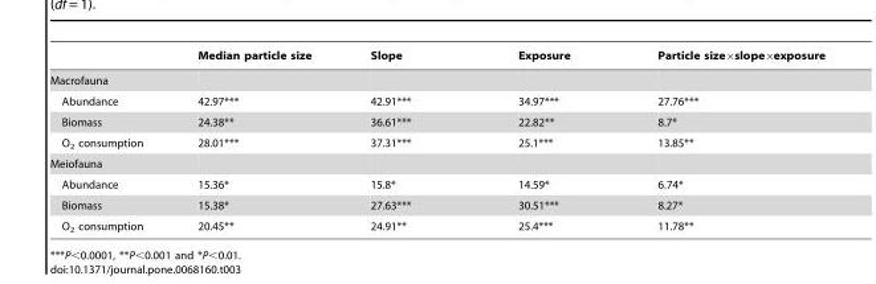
<table><thead><tr><td></td><td>Median particle size</td><td>Slope</td><td>Exposure</td><td>Particle size×slope×exposure</td></tr></thead><tbody><tr><td colspan="5">Macrofauna</td></tr><tr><td>Abundance</td><td>42.97***</td><td>42.91***</td><td>34.97***</td><td>27.76***</td></tr><tr><td>Biomass</td><td>24.38**</td><td>36.61***</td><td>22.82**</td><td>8.7*</td></tr><tr><td>O<sub>2</sub> consumption</td><td>28.01***</td><td>37.31***</td><td>25.1***</td><td>13.85**</td></tr><tr><td colspan="5">Meiofauna</td></tr><tr><td>Abundance</td><td>15.36*</td><td>15.8*</td><td>14.59*</td><td>6.74*</td></tr><tr><td>Biomass</td><td>15.38*</td><td>27.63***</td><td>30.51***</td><td>8.27*</td></tr><tr><td>O<sub>2</sub> consumption</td><td>20.45**</td><td>24.91**</td><td>25.4***</td><td>11.78**</td></tr></tbody></table>